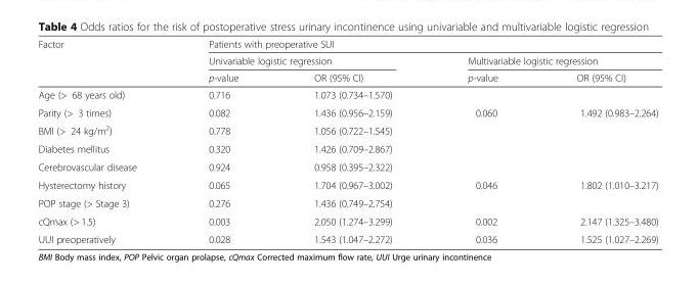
<table><thead><tr><td rowspan="3">Factor</td><td colspan="4">Patients with preoperative SUI</td></tr><tr><td colspan="2">Univariable logistic regression</td><td colspan="2">Multivariable logistic regression</td></tr><tr><td>p-value</td><td>OR (95% CI)</td><td>p-value</td><td>OR (95% CI)</td></tr></thead><tbody><tr><td>Age (&gt; 68 years old)</td><td>0.716</td><td>1.073 (0.734–1.570)</td><td></td><td></td></tr><tr><td>Parity (&gt; 3 times)</td><td>0.082</td><td>1.436 (0.956–2.159)</td><td>0.060</td><td>1.492 (0.983–2.264)</td></tr><tr><td>BMI (&gt; 24 kg/m<sup>2</sup>)</td><td>0.778</td><td>1.056 (0.722–1.545)</td><td></td><td></td></tr><tr><td>Diabetes mellitus</td><td>0.320</td><td>1.426 (0.709–2.867)</td><td></td><td></td></tr><tr><td>Cerebrovascular disease</td><td>0.924</td><td>0.958 (0.395–2.322)</td><td></td><td></td></tr><tr><td>Hysterectomy history</td><td>0.065</td><td>1.704 (0.967–3.002)</td><td>0.046</td><td>1.802 (1.010–3.217)</td></tr><tr><td>POP stage (&gt; Stage 3)</td><td>0.276</td><td>1.436 (0.749–2.754)</td><td></td><td></td></tr><tr><td>cQmax (&gt; 1.5)</td><td>0.003</td><td>2.050 (1.274–3.299)</td><td>0.002</td><td>2.147 (1.325–3.480)</td></tr><tr><td>UUI preoperatively</td><td>0.028</td><td>1.543 (1.047–2.272)</td><td>0.036</td><td>1.525 (1.027–2.269)</td></tr></tbody></table>